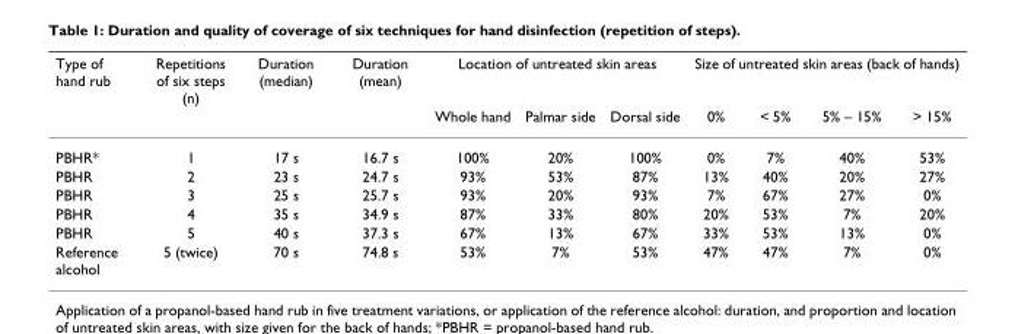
<table><thead><tr><td rowspan="2">Type of hand rub</td><td rowspan="2">Repetitions of six steps (n)</td><td rowspan="2">Duration (median)</td><td rowspan="2">Duration (mean)</td><td colspan="3">Location of untreated skin areas</td><td colspan="4">Size of untreated skin areas (back of hands)</td></tr><tr><td>Whole hand</td><td>Palmar side</td><td>Dorsal side</td><td>0%</td><td>&lt; 5%</td><td>5% – 15%</td><td>&gt; 15%</td></tr></thead><tbody><tr><td>PBHR*</td><td>1</td><td>17 s</td><td>16.7 s</td><td>100%</td><td>20%</td><td>100%</td><td>0%</td><td>7%</td><td>40%</td><td>53%</td></tr><tr><td>PBHR</td><td>2</td><td>23 s</td><td>24.7 s</td><td>93%</td><td>53%</td><td>87%</td><td>13%</td><td>40%</td><td>20%</td><td>27%</td></tr><tr><td>PBHR</td><td>3</td><td>25 s</td><td>25.7 s</td><td>93%</td><td>20%</td><td>93%</td><td>7%</td><td>67%</td><td>27%</td><td>0%</td></tr><tr><td>PBHR</td><td>4</td><td>35 s</td><td>34.9 s</td><td>87%</td><td>33%</td><td>80%</td><td>20%</td><td>53%</td><td>7%</td><td>20%</td></tr><tr><td>PBHR</td><td>5</td><td>40 s</td><td>37.3 s</td><td>67%</td><td>13%</td><td>67%</td><td>33%</td><td>53%</td><td>13%</td><td>0%</td></tr><tr><td>Reference alcohol</td><td>5 (twice)</td><td>70 s</td><td>74.8 s</td><td>53%</td><td>7%</td><td>53%</td><td>47%</td><td>47%</td><td>7%</td><td>0%</td></tr></tbody></table>